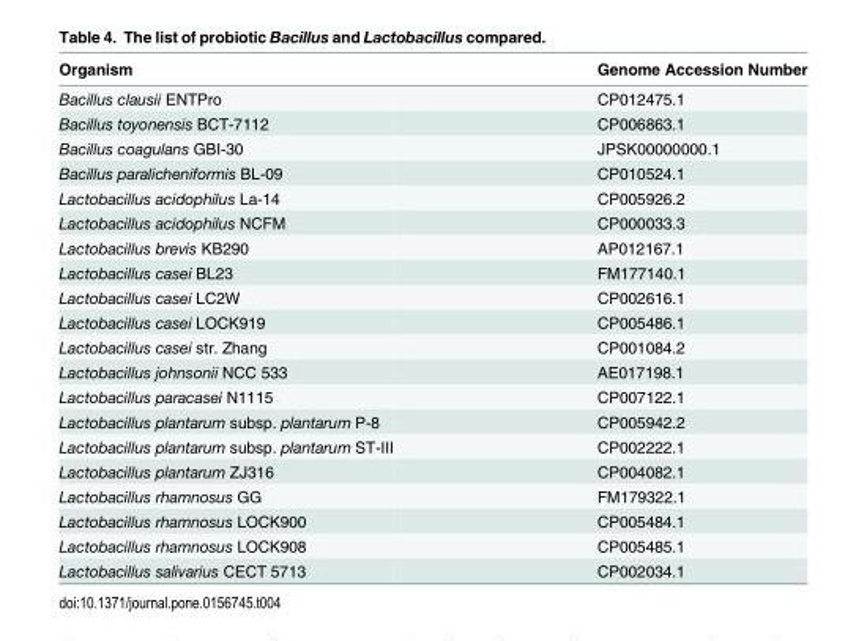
<table><thead><tr><td>Organism</td><td>Genome Accession Number</td></tr></thead><tbody><tr><td>Bacillus clausii ENTPro</td><td>CP012475.1</td></tr><tr><td>Bacillus toyonensis BCT-7112</td><td>CP006863.1</td></tr><tr><td>Bacillus coagulans GBI-30</td><td>JPSK00000000.1</td></tr><tr><td>Bacillus paralicheniformis BL-09</td><td>CP010524.1</td></tr><tr><td>Lactobacillus acidophilus La-14</td><td>CP005926.2</td></tr><tr><td>Lactobacillus acidophilus NCFM</td><td>CP000033.3</td></tr><tr><td>Lactobacillus brevis KB290</td><td>AP012167.1</td></tr><tr><td>Lactobacillus casei BL23</td><td>FM177140.1</td></tr><tr><td>Lactobacillus casei LC2W</td><td>CP002616.1</td></tr><tr><td>Lactobacillus casei LOCK919</td><td>CP005486.1</td></tr><tr><td>Lactobacillus casei str. Zhang</td><td>CP001084.2</td></tr><tr><td>Lactobacillus johnsonii NCC 533</td><td>AE017198.1</td></tr><tr><td>Lactobacillus paracasei N1115</td><td>CP007122.1</td></tr><tr><td>Lactobacillus plantarum subsp. plantarum P-8</td><td>CP005942.2</td></tr><tr><td>Lactobacillus plantarum subsp. plantarum ST-III</td><td>CP002222.1</td></tr><tr><td>Lactobacillus plantarum ZJ316</td><td>CP004082.1</td></tr><tr><td>Lactobacillus rhamnosus GG</td><td>FM179322.1</td></tr><tr><td>Lactobacillus rhamnosus LOCK900</td><td>CP005484.1</td></tr><tr><td>Lactobacillus rhamnosus LOCK908</td><td>CP005485.1</td></tr><tr><td>Lactobacillus salivarius CECT 5713</td><td>CP002034.1</td></tr></tbody></table>